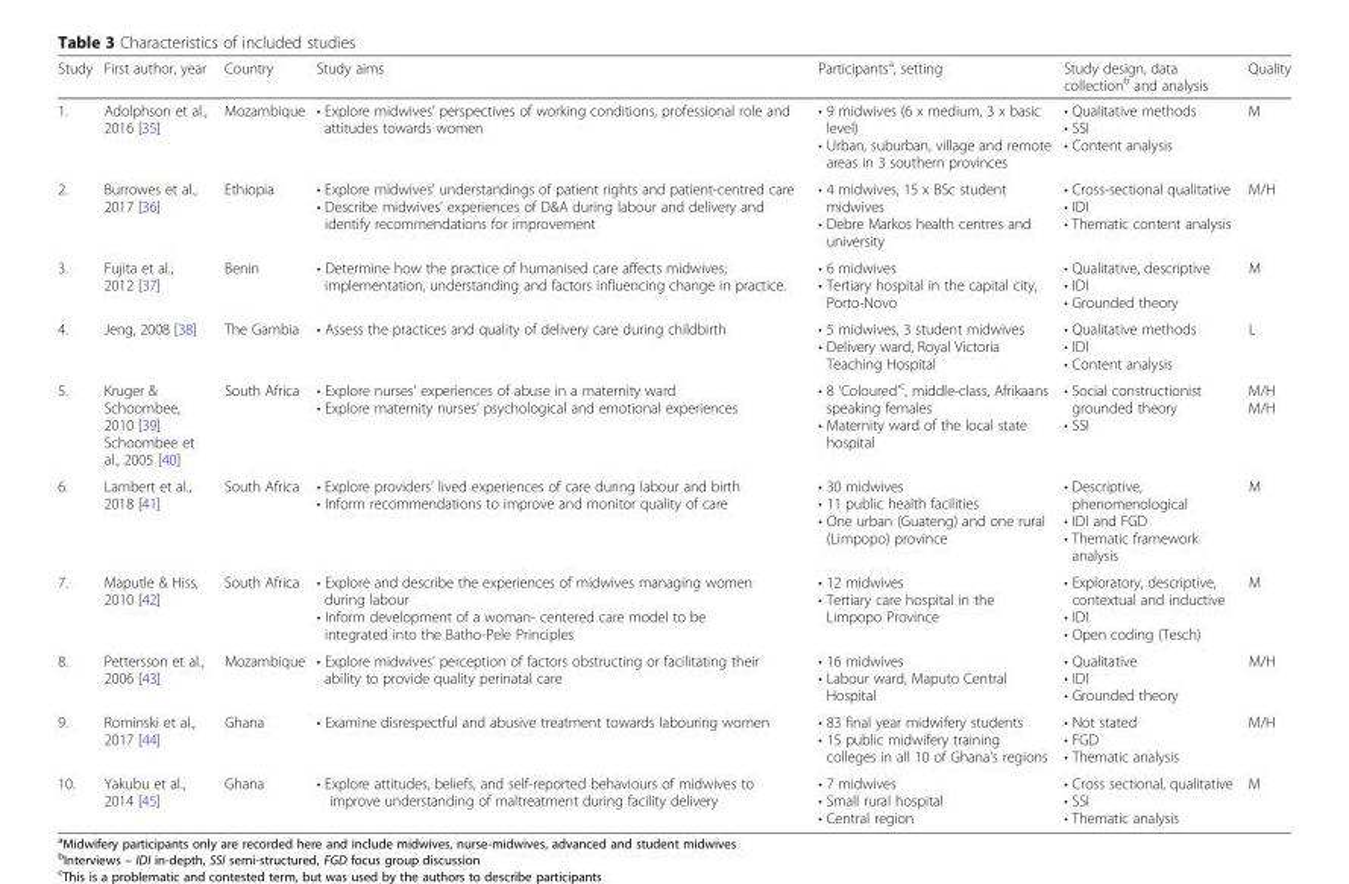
<table><thead><tr><td>Study</td><td>First author, year</td><td>Country</td><td>Study aims</td><td>Participants<sup>a</sup>, setting</td><td>Study design, data collection<sup>b</sup> and analysis</td><td>Quality</td></tr></thead><tbody><tr><td>1.</td><td>Adolphson et al., 2016 [35]</td><td>Mozambique</td><td>• Explore midwives’ perspectives of working conditions, professional role and attitudes towards women</td><td>• 9 midwives (6 x medium, 3 x basic level) • Urban, suburban, village and remote areas in 3 southern provinces</td><td>• Qualitative methods • SSI • Content analysis</td><td>M</td></tr><tr><td>2.</td><td>Burrowes et al., 2017 [36]</td><td>Ethiopia</td><td>• Explore midwives’ understandings of patient rights and patient-centred care • Describe midwives’ experiences of D&amp;A during labour and delivery and identify recommendations for improvement</td><td>• 4 midwives, 15 x BSc student midwives • Debre Markos health centres and university</td><td>• Cross-sectional qualitative • IDI • Thematic content analysis</td><td>M/H</td></tr><tr><td>3.</td><td>Fujita et al., 2012 [37]</td><td>Benin</td><td>• Determine how the practice of humanised care affects midwives; implementation, understanding and factors influencing change in practice.</td><td>• 6 midwives • Tertiary hospital in the capital city, Porto-Novo</td><td>• Qualitative, descriptive • IDI • Grounded theory</td><td>M</td></tr><tr><td>4.</td><td>Jeng, 2008 [38]</td><td>The Gambia</td><td>• Assess the practices and quality of delivery care during childbirth</td><td>• 5 midwives, 3 student midwives • Delivery ward, Royal Victoria Teaching Hospital</td><td>• Qualitative methods • IDI • Content analysis</td><td>L</td></tr><tr><td>5.</td><td>Kruger &amp; Schoombee, 2010 [39] Schoombee et al., 2005 [40]</td><td>South Africa</td><td>• Explore nurses’ experiences of abuse in a maternity ward • Explore maternity nurses’ psychological and emotional experiences</td><td>• 8 ‘Coloured’<sup>c</sup>, middle-class, Afrikaans speaking females • Maternity ward of the local state hospital</td><td>• Social constructionist grounded theory • SSI</td><td>M/H M/H</td></tr><tr><td>6.</td><td>Lambert et al., 2018 [41]</td><td>South Africa</td><td>• Explore providers’ lived experiences of care during labour and birth • Inform recommendations to improve and monitor quality of care</td><td>• 30 midwives • 11 public health facilities • One urban (Guateng) and one rural (Limpopo) province</td><td>• Descriptive, phenomenological • IDI and FGD • Thematic framework analysis</td><td>M</td></tr><tr><td>7.</td><td>Maputle &amp; Hiss, 2010 [42]</td><td>South Africa</td><td>• Explore and describe the experiences of midwives managing women during labour • Inform development of a woman- centered care model to be integrated into the Batho-Pele Principles</td><td>• 12 midwives • Tertiary care hospital in the Limpopo Province</td><td>• Exploratory, descriptive, contextual and inductive • IDI • Open coding (Tesch)</td><td>M</td></tr><tr><td>8.</td><td>Pettersson et al., 2006 [43]</td><td>Mozambique</td><td>• Explore midwives’ perception of factors obstructing or facilitating their ability to provide quality perinatal care</td><td>• 16 midwives • Labour ward, Maputo Central Hospital</td><td>• Qualitative • IDI • Grounded theory</td><td>M/H</td></tr><tr><td>9.</td><td>Rominski et al., 2017 [44]</td><td>Ghana</td><td>• Examine disrespectful and abusive treatment towards labouring women</td><td>• 83 final year midwifery students • 15 public midwifery training colleges in all 10 of Ghana’s regions</td><td>• Not stated • FGD • Thematic analysis</td><td>M/H</td></tr><tr><td>10.</td><td>Yakubu et al., 2014 [45]</td><td>Ghana</td><td>• Explore attitudes, beliefs, and self-reported behaviours of midwives to improve understanding of maltreatment during facility delivery</td><td>• 7 midwives • Small rural hospital • Central region</td><td>• Cross sectional, qualitative • SSI • Thematic analysis</td><td>M</td></tr></tbody></table>